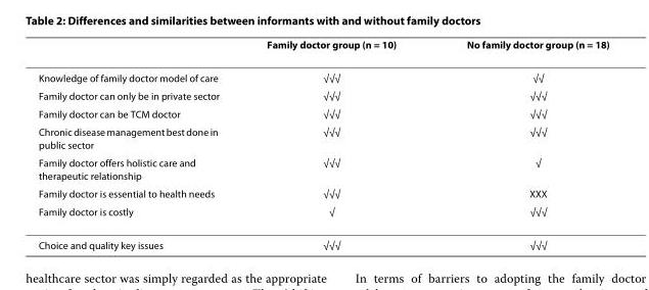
<table><thead><tr><td></td><td>Family doctor group (n = 10)</td><td>No family doctor group (n = 18)</td></tr></thead><tbody><tr><td>Knowledge of family doctor model of care</td><td>√√√</td><td>√√</td></tr><tr><td>Family doctor can only be in private sector</td><td>√√√</td><td>√√√</td></tr><tr><td>Family doctor can be TCM doctor</td><td>√√√</td><td>√√√</td></tr><tr><td>Chronic disease management best done in public sector</td><td>√√√</td><td>√√√</td></tr><tr><td>Family doctor offers holistic care and therapeutic relationship</td><td>√√√</td><td>√</td></tr><tr><td>Family doctor is essential to health needs</td><td>√√√</td><td>XXX</td></tr><tr><td>Family doctor is costly</td><td>√</td><td>√√√</td></tr><tr><td>Choice and quality key issues</td><td>√√√</td><td>√√√</td></tr></tbody></table>